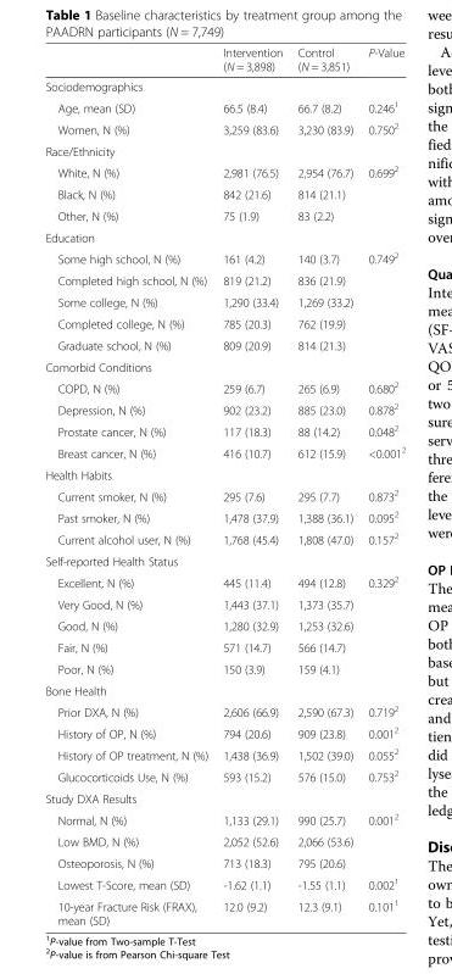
<table><thead><tr><td></td><td>Intervention (N = 3,898)</td><td>Control (N = 3,851)</td><td>P-Value</td></tr></thead><tbody><tr><td colspan="4">Sociodemographics</td></tr><tr><td>Age, mean (SD)</td><td>66.5 (8.4)</td><td>66.7 (8.2)</td><td>0.246<sup>1</sup></td></tr><tr><td>Women, N (%)</td><td>3,259 (83.6)</td><td>3,230 (83.9)</td><td>0.750<sup>2</sup></td></tr><tr><td colspan="4">Race/Ethnicity</td></tr><tr><td>White, N (%)</td><td>2,981 (76.5)</td><td>2,954 (76.7)</td><td rowspan="3">0.699<sup>2</sup></td></tr><tr><td>Black, N (%)</td><td>842 (21.6)</td><td>814 (21.1)</td></tr><tr><td>Other, N (%)</td><td>75 (1.9)</td><td>83 (2.2)</td></tr><tr><td colspan="4">Education</td></tr><tr><td>Some high school, N (%)</td><td>161 (4.2)</td><td>140 (3.7)</td><td rowspan="5">0.749<sup>2</sup></td></tr><tr><td>Completed high school, N (%)</td><td>819 (21.2)</td><td>836 (21.9)</td></tr><tr><td>Some college, N (%)</td><td>1,290 (33.4)</td><td>1,269 (33.2)</td></tr><tr><td>Completed college, N (%)</td><td>785 (20.3)</td><td>762 (19.9)</td></tr><tr><td>Graduate school, N (%)</td><td>809 (20.9)</td><td>814 (21.3)</td></tr><tr><td colspan="4">Comorbid Conditions</td></tr><tr><td>COPD, N (%)</td><td>259 (6.7)</td><td>265 (6.9)</td><td>0.680<sup>2</sup></td></tr><tr><td>Depression, N (%)</td><td>902 (23.2)</td><td>885 (23.0)</td><td>0.878<sup>2</sup></td></tr><tr><td>Prostate cancer, N (%)</td><td>117 (18.3)</td><td>88 (14.2)</td><td>0.048<sup>2</sup></td></tr><tr><td>Breast cancer, N (%)</td><td>416 (10.7)</td><td>612 (15.9)</td><td>&lt;0.001<sup>2</sup></td></tr><tr><td colspan="4">Health Habits</td></tr><tr><td>Current smoker, N (%)</td><td>295 (7.6)</td><td>295 (7.7)</td><td>0.873<sup>2</sup></td></tr><tr><td>Past smoker, N (%)</td><td>1,478 (37.9)</td><td>1,388 (36.1)</td><td>0.095<sup>2</sup></td></tr><tr><td>Current alcohol user, N (%)</td><td>1,768 (45.4)</td><td>1,808 (47.0)</td><td>0.157<sup>2</sup></td></tr><tr><td colspan="4">Self-reported Health Status</td></tr><tr><td>Excellent, N (%)</td><td>445 (11.4)</td><td>494 (12.8)</td><td rowspan="5">0.329<sup>2</sup></td></tr><tr><td>Very Good, N (%)</td><td>1,443 (37.1)</td><td>1,373 (35.7)</td></tr><tr><td>Good, N (%)</td><td>1,280 (32.9)</td><td>1,253 (32.6)</td></tr><tr><td>Fair, N (%)</td><td>571 (14.7)</td><td>566 (14.7)</td></tr><tr><td>Poor, N (%)</td><td>150 (3.9)</td><td>159 (4.1)</td></tr><tr><td colspan="4">Bone Health</td></tr><tr><td>Prior DXA, N (%)</td><td>2,606 (66.9)</td><td>2,590 (67.3)</td><td>0.719<sup>2</sup></td></tr><tr><td>History of OP, N (%)</td><td>794 (20.6)</td><td>909 (23.8)</td><td>0.001<sup>2</sup></td></tr><tr><td>History of OP treatment, N (%)</td><td>1,438 (36.9)</td><td>1,502 (39.0)</td><td>0.055<sup>2</sup></td></tr><tr><td>Glucocorticoids Use, N (%)</td><td>593 (15.2)</td><td>576 (15.0)</td><td>0.753<sup>2</sup></td></tr><tr><td colspan="4">Study DXA Results</td></tr><tr><td>Normal, N (%)</td><td>1,133 (29.1)</td><td>990 (25.7)</td><td rowspan="3">0.001<sup>2</sup></td></tr><tr><td>Low BMD, N (%)</td><td>2,052 (52.6)</td><td>2,066 (53.6)</td></tr><tr><td>Osteoporosis, N (%)</td><td>713 (18.3)</td><td>795 (20.6)</td></tr><tr><td>Lowest T-Score, mean (SD)</td><td>-1.62 (1.1)</td><td>-1.55 (1.1)</td><td>0.002<sup>1</sup></td></tr><tr><td>10-year Fracture Risk (FRAX), mean (SD)</td><td>12.0 (9.2)</td><td>12.3 (9.1)</td><td>0.101<sup>1</sup></td></tr></tbody></table>